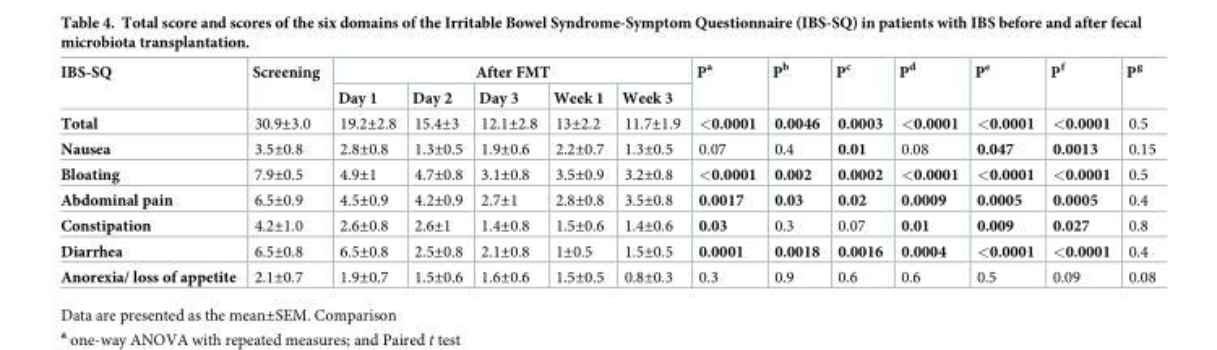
<table><thead><tr><td rowspan="2">IBS-SQ</td><td rowspan="2">Screening</td><td colspan="5">After FMT</td><td rowspan="2">P<sup>a</sup></td><td rowspan="2">P<sup>b</sup></td><td rowspan="2">P<sup>c</sup></td><td rowspan="2">P<sup>d</sup></td><td rowspan="2">P<sup>e</sup></td><td rowspan="2">P<sup>f</sup></td><td rowspan="2">P<sup>g</sup></td></tr><tr><td>Day 1</td><td>Day 2</td><td>Day 3</td><td>Week 1</td><td>Week 3</td></tr></thead><tbody><tr><td>Total</td><td>30.9±3.0</td><td>19.2±2.8</td><td>15.4±3</td><td>12.1±2.8</td><td>13±2.2</td><td>11.7±1.9</td><td>&lt;0.0001</td><td>0.0046</td><td>0.0003</td><td>&lt;0.0001</td><td>&lt;0.0001</td><td>&lt;0.0001</td><td>0.5</td></tr><tr><td>Nausea</td><td>3.5±0.8</td><td>2.8±0.8</td><td>1.3±0.5</td><td>1.9±0.6</td><td>2.2±0.7</td><td>1.3±0.5</td><td>0.07</td><td>0.4</td><td>0.01</td><td>0.08</td><td>0.047</td><td>0.0013</td><td>0.15</td></tr><tr><td>Bloating</td><td>7.9±0.5</td><td>4.9±1</td><td>4.7±0.8</td><td>3.1±0.8</td><td>3.5±0.9</td><td>3.2±0.8</td><td>&lt;0.0001</td><td>0.002</td><td>0.0002</td><td>&lt;0.0001</td><td>&lt;0.0001</td><td>&lt;0.0001</td><td>0.5</td></tr><tr><td>Abdominal pain</td><td>6.5±0.9</td><td>4.5±0.9</td><td>4.2±0.9</td><td>2.7±1</td><td>2.8±0.8</td><td>3.5±0.8</td><td>0.0017</td><td>0.03</td><td>0.02</td><td>0.0009</td><td>0.0005</td><td>0.0005</td><td>0.4</td></tr><tr><td>Constipation</td><td>4.2±1.0</td><td>2.6±0.8</td><td>2.6±1</td><td>1.4±0.8</td><td>1.5±0.6</td><td>1.4±0.6</td><td>0.03</td><td>0.3</td><td>0.07</td><td>0.01</td><td>0.009</td><td>0.027</td><td>0.8</td></tr><tr><td>Diarrhea</td><td>6.5±0.8</td><td>6.5±0.8</td><td>2.5±0.8</td><td>2.1±0.8</td><td>1±0.5</td><td>1.5±0.5</td><td>0.0001</td><td>0.0018</td><td>0.0016</td><td>0.0004</td><td>&lt;0.0001</td><td>&lt;0.0001</td><td>0.4</td></tr><tr><td>Anorexia/ loss of appetite</td><td>2.1±0.7</td><td>1.9±0.7</td><td>1.5±0.6</td><td>1.6±0.6</td><td>1.5±0.5</td><td>0.8±0.3</td><td>0.3</td><td>0.9</td><td>0.6</td><td>0.6</td><td>0.5</td><td>0.09</td><td>0.08</td></tr></tbody></table>